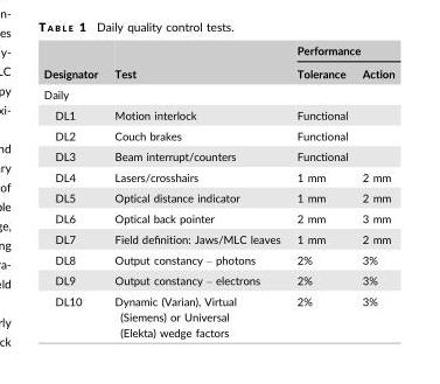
<table><thead><tr><td rowspan="2">Designator</td><td rowspan="2">Test</td><td colspan="2">Performance</td></tr><tr><td>Tolerance</td><td>Action</td></tr></thead><tbody><tr><td colspan="4">Daily</td></tr><tr><td>DL1</td><td>Motion interlock</td><td colspan="2">Functional</td></tr><tr><td>DL2</td><td>Couch brakes</td><td colspan="2">Functional</td></tr><tr><td>DL3</td><td>Beam interrupt/counters</td><td colspan="2">Functional</td></tr><tr><td>DL4</td><td>Lasers/crosshairs</td><td>1 mm</td><td>2 mm</td></tr><tr><td>DL5</td><td>Optical distance indicator</td><td>1 mm</td><td>2 mm</td></tr><tr><td>DL6</td><td>Optical back pointer</td><td>2 mm</td><td>3 mm</td></tr><tr><td>DL7</td><td>Field definition: Jaws/MLC leaves</td><td>1 mm</td><td>2 mm</td></tr><tr><td>DL8</td><td>Output constancy – photons</td><td>2%</td><td>3%</td></tr><tr><td>DL9</td><td>Output constancy – electrons</td><td>2%</td><td>3%</td></tr><tr><td>DL10</td><td>Dynamic (Varian), Virtual (Siemens) or Universal (Elekta) wedge factors</td><td>2%</td><td>3%</td></tr></tbody></table>